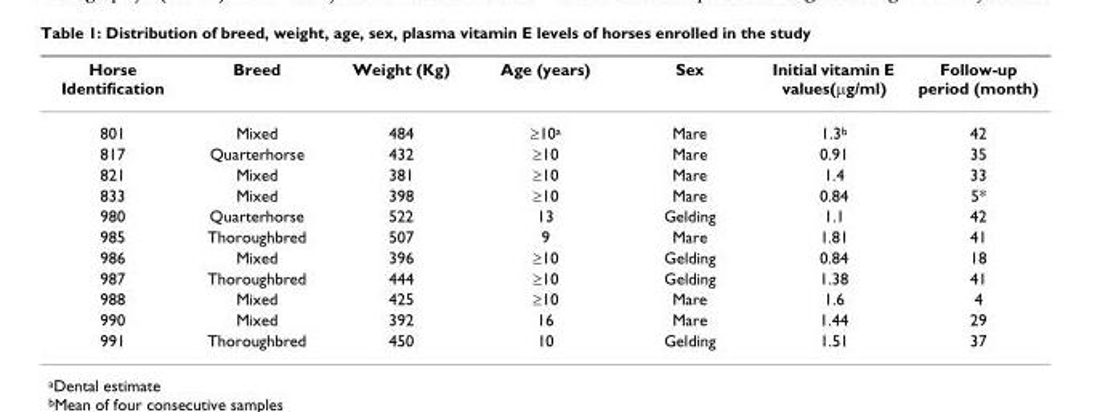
<table><thead><tr><td>Horse Identification</td><td>Breed</td><td>Weight (Kg)</td><td>Age (years)</td><td>Sex</td><td>Initial vitamin E values(µg/ml)</td><td>Follow-up period (month)</td></tr></thead><tbody><tr><td>801</td><td>Mixed</td><td>484</td><td>≥10<sup>a</sup></td><td>Mare</td><td>1.3<sup>b</sup></td><td>42</td></tr><tr><td>817</td><td>Quarterhorse</td><td>432</td><td>≥10</td><td>Mare</td><td>0.91</td><td>35</td></tr><tr><td>821</td><td>Mixed</td><td>381</td><td>≥10</td><td>Mare</td><td>1.4</td><td>33</td></tr><tr><td>833</td><td>Mixed</td><td>398</td><td>≥10</td><td>Mare</td><td>0.84</td><td>5*</td></tr><tr><td>980</td><td>Quarterhorse</td><td>522</td><td>13</td><td>Gelding</td><td>1.1</td><td>42</td></tr><tr><td>985</td><td>Thoroughbred</td><td>507</td><td>9</td><td>Mare</td><td>1.81</td><td>41</td></tr><tr><td>986</td><td>Mixed</td><td>396</td><td>≥10</td><td>Gelding</td><td>0.84</td><td>18</td></tr><tr><td>987</td><td>Thoroughbred</td><td>444</td><td>≥10</td><td>Gelding</td><td>1.38</td><td>41</td></tr><tr><td>988</td><td>Mixed</td><td>425</td><td>≥10</td><td>Mare</td><td>1.6</td><td>4</td></tr><tr><td>990</td><td>Mixed</td><td>392</td><td>16</td><td>Mare</td><td>1.44</td><td>29</td></tr><tr><td>991</td><td>Thoroughbred</td><td>450</td><td>10</td><td>Gelding</td><td>1.51</td><td>37</td></tr></tbody></table>